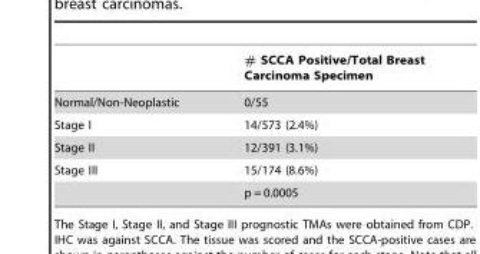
<table><thead><tr><td></td><td># SCCA Positive/Total Breast Carcinoma Specimen</td></tr></thead><tbody><tr><td>Normal/Non-Neoplastic</td><td>0/55</td></tr><tr><td>Stage I</td><td>14/573 (2.4%)</td></tr><tr><td>Stage II</td><td>12/391 (3.1%)</td></tr><tr><td rowspan="2">Stage III</td><td>15/174 (8.6%)</td></tr><tr><td>p = 0.0005</td></tr></tbody></table>